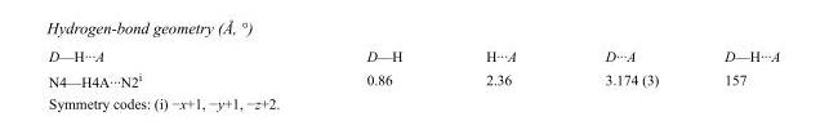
<table><tbody><tr><td>D—H···A</td><td>D—H</td><td>H···A</td><td>D···A</td><td>D—H···A</td></tr><tr><td>N4—H4A···N2<sup>i</sup></td><td>0.86</td><td>2.36</td><td>3.174 (3)</td><td>157</td></tr></tbody></table>